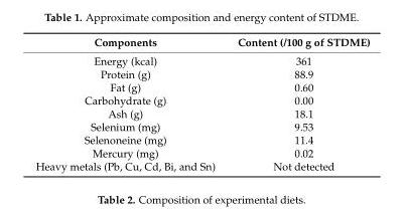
<table><thead><tr><td>Components</td><td>Content (/100 g of STDME)</td></tr></thead><tbody><tr><td>Energy (kcal)</td><td>361</td></tr><tr><td>Protein (g)</td><td>88.9</td></tr><tr><td>Fat (g)</td><td>0.60</td></tr><tr><td>Carbohydrate (g)</td><td>0.00</td></tr><tr><td>Ash (g)</td><td>18.1</td></tr><tr><td>Selenium (mg)</td><td>9.53</td></tr><tr><td>Selenoneine (mg)</td><td>11.4</td></tr><tr><td>Mercury (mg)</td><td>0.02</td></tr><tr><td>Heavy metals (Pb, Cu, Cd, Bi, and Sn)</td><td>Not detected</td></tr></tbody></table>